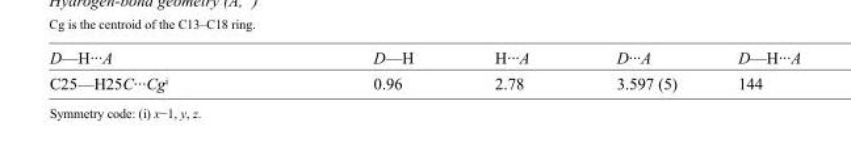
<table><tbody><tr><td>D—H···A</td><td>D—H</td><td>H···A</td><td>D···A</td><td>D—H···A</td></tr><tr><td>C25—H25C···Cg<sup>i</sup></td><td>0.96</td><td>2.78</td><td>3.597 (5)</td><td>144</td></tr></tbody></table>